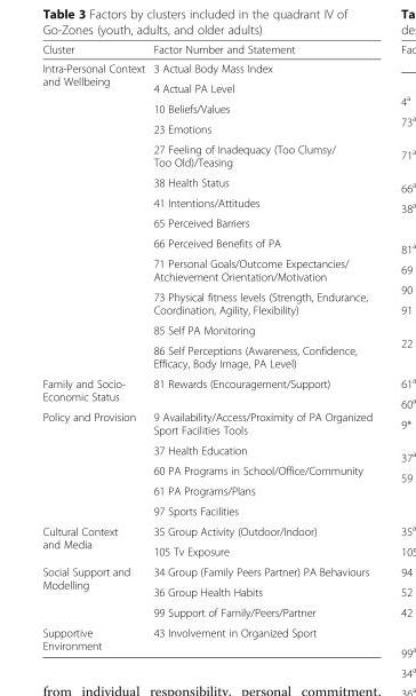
<table><thead><tr><td>Cluster</td><td>Factor Number and Statement</td></tr></thead><tbody><tr><td rowspan="13">Intra-Personal Context and Wellbeing</td><td>3 Actual Body Mass Index</td></tr><tr><td>4 Actual PA Level</td></tr><tr><td>10 Beliefs/Values</td></tr><tr><td>23 Emotions</td></tr><tr><td>27 Feeling of Inadequacy (Too Clumsy/ Too Old)/Teasing</td></tr><tr><td>38 Health Status</td></tr><tr><td>41 Intentions/Attitudes</td></tr><tr><td>65 Perceived Barriers</td></tr><tr><td>66 Perceived Benefits of PA</td></tr><tr><td>71 Personal Goals/Outcome Expectancies/ Atchievement Orientation/Motivation</td></tr><tr><td>73 Physical fitness levels (Strength, Endurance, Coordination, Agility, Flexibility)</td></tr><tr><td>85 Self PA Monitoring</td></tr><tr><td>86 Self Perceptions (Awareness, Confidence, Efficacy, Body Image, PA Level)</td></tr><tr><td>Family and Socio- Economic Status</td><td>81 Rewards (Encouragement/Support)</td></tr><tr><td rowspan="5">Policy and Provision</td><td>9 Availability/Access/Proximity of PA Organized Sport Facilities Tools</td></tr><tr><td>37 Health Education</td></tr><tr><td>60 PA Programs in School/Office/Community</td></tr><tr><td>61 PA Programs/Plans</td></tr><tr><td>97 Sports Facilities</td></tr><tr><td rowspan="2">Cultural Context and Media</td><td>35 Group Activity (Outdoor/Indoor)</td></tr><tr><td>105 Tv Exposure</td></tr><tr><td rowspan="3">Social Support and Modelling</td><td>34 Group (Family Peers Partner) PA Behaviours</td></tr><tr><td>36 Group Health Habits</td></tr><tr><td>99 Support of Family/Peers/Partner</td></tr><tr><td>Supportive Environment</td><td>43 Involvement in Organized Sport</td></tr></tbody></table>